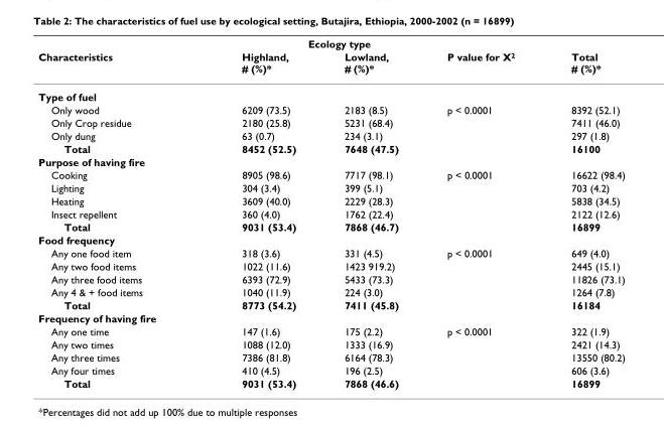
<table><thead><tr><td rowspan="2">Characteristics</td><td colspan="2">Ecology type</td><td rowspan="2">P value for X<sup>2</sup></td><td rowspan="2">Total # (%)*</td></tr><tr><td>Highland, # (%)*</td><td>Lowland, # (%)*</td></tr></thead><tbody><tr><td colspan="5">Type of fuel</td></tr><tr><td>Only wood</td><td>6209 (73.5)</td><td>2183 (8.5)</td><td>p &lt; 0.0001</td><td>8392 (52.1)</td></tr><tr><td>Only Crop residue</td><td>2180 (25.8)</td><td>5231 (68.4)</td><td></td><td>7411 (46.0)</td></tr><tr><td>Only dung</td><td>63 (0.7)</td><td>234 (3.1)</td><td></td><td>297 (1.8)</td></tr><tr><td>Total</td><td>8452 (52.5)</td><td>7648 (47.5)</td><td></td><td>16100</td></tr><tr><td colspan="5">Purpose of having fire</td></tr><tr><td>Cooking</td><td>8905 (98.6)</td><td>7717 (98.1)</td><td>p &lt; 0.0001</td><td>16622 (98.4)</td></tr><tr><td>Lighting</td><td>304 (3.4)</td><td>399 (5.1)</td><td></td><td>703 (4.2)</td></tr><tr><td>Heating</td><td>3609 (40.0)</td><td>2229 (28.3)</td><td></td><td>5838 (34.5)</td></tr><tr><td>Insect repellent</td><td>360 (4.0)</td><td>1762 (22.4)</td><td></td><td>2122 (12.6)</td></tr><tr><td>Total</td><td>9031 (53.4)</td><td>7868 (46.7)</td><td></td><td>16899</td></tr><tr><td colspan="5">Food frequency</td></tr><tr><td>Any one food item</td><td>318 (3.6)</td><td>331 (4.5)</td><td>p &lt; 0.0001</td><td>649 (4.0)</td></tr><tr><td>Any two food items</td><td>1022 (11.6)</td><td>1423 919.2)</td><td></td><td>2445 (15.1)</td></tr><tr><td>Any three food items</td><td>6393 (72.9)</td><td>5433 (73.3)</td><td></td><td>11826 (73.1)</td></tr><tr><td>Any 4 &amp; + food items</td><td>1040 (11.9)</td><td>224 (3.0)</td><td></td><td>1264 (7.8)</td></tr><tr><td>Total</td><td>8773 (54.2)</td><td>7411 (45.8)</td><td></td><td>16184</td></tr><tr><td colspan="5">Frequency of having fire</td></tr><tr><td>Any one time</td><td>147 (1.6)</td><td>175 (2.2)</td><td>p &lt; 0.0001</td><td>322 (1.9)</td></tr><tr><td>Any two times</td><td>1088 (12.0)</td><td>1333 (16.9)</td><td></td><td>2421 (14.3)</td></tr><tr><td>Any three times</td><td>7386 (81.8)</td><td>6164 (78.3)</td><td></td><td>13550 (80.2)</td></tr><tr><td>Any four times</td><td>410 (4.5)</td><td>196 (2.5)</td><td></td><td>606 (3.6)</td></tr><tr><td>Total</td><td>9031 (53.4)</td><td>7868 (46.6)</td><td></td><td>16899</td></tr></tbody></table>